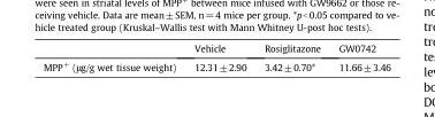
<table><thead><tr><td></td><td>Vehicle</td><td>Rosiglitazone</td><td>GW0742</td></tr></thead><tbody><tr><td>MPP<sup>+</sup> (μg/g wet tissue weight)</td><td>12.31±2.90</td><td>3.42±0.70*</td><td>11.66±3.46</td></tr></tbody></table>